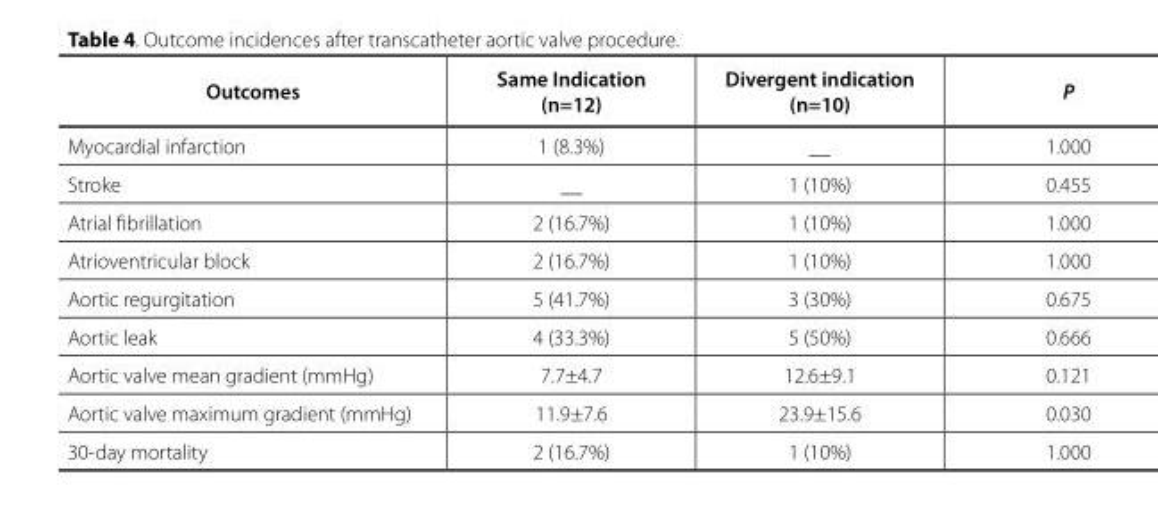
<table><thead><tr><td>Outcomes</td><td>Same Indication (n=12)</td><td>Divergent indication (n=10)</td><td>P</td></tr></thead><tbody><tr><td>Myocardial infarction</td><td>1 (8.3%)</td><td>__</td><td>1.000</td></tr><tr><td>Stroke</td><td>__</td><td>1 (10%)</td><td>0.455</td></tr><tr><td>Atrial fibrillation</td><td>2 (16.7%)</td><td>1 (10%)</td><td>1.000</td></tr><tr><td>Atrioventricular block</td><td>2 (16.7%)</td><td>1 (10%)</td><td>1.000</td></tr><tr><td>Aortic regurgitation</td><td>5 (41.7%)</td><td>3 (30%)</td><td>0.675</td></tr><tr><td>Aortic leak</td><td>4 (33.3%)</td><td>5 (50%)</td><td>0.666</td></tr><tr><td>Aortic valve mean gradient (mmHg)</td><td>7.7±4.7</td><td>12.6±9.1</td><td>0.121</td></tr><tr><td>Aortic valve maximum gradient (mmHg)</td><td>11.9±7.6</td><td>23.9±15.6</td><td>0.030</td></tr><tr><td>30-day mortality</td><td>2 (16.7%)</td><td>1 (10%)</td><td>1.000</td></tr></tbody></table>